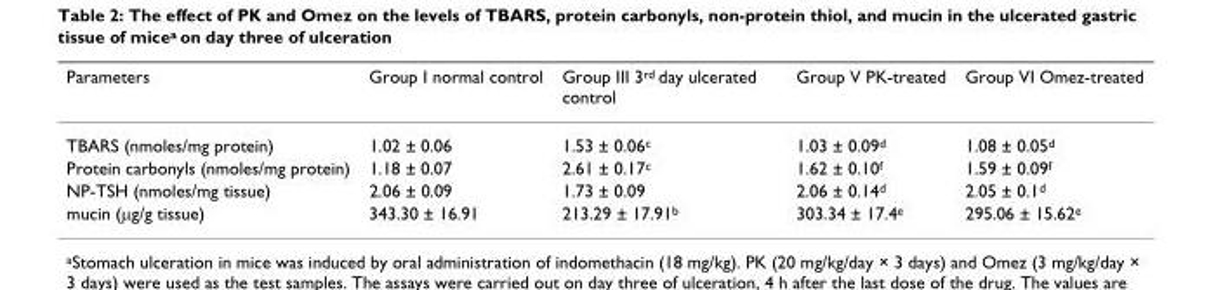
<table><thead><tr><td>Parameters</td><td>Group I normal control</td><td>Group III 3<sup>rd</sup> day ulcerated control</td><td>Group V PK-treated</td><td>Group VI Omez-treated</td></tr></thead><tbody><tr><td>TBARS (nmoles/mg protein)</td><td>1.02 ± 0.06</td><td>1.53 ± 0.06<sup>c</sup></td><td>1.03 ± 0.09<sup>d</sup></td><td>1.08 ± 0.05<sup>d</sup></td></tr><tr><td>Protein carbonyls (nmoles/mg protein)</td><td>1.18 ± 0.07</td><td>2.61 ± 0.17<sup>c</sup></td><td>1.62 ± 0.10<sup>f</sup></td><td>1.59 ± 0.09<sup>f</sup></td></tr><tr><td>NP-TSH (nmoles/mg tissue)</td><td>2.06 ± 0.09</td><td>1.73 ± 0.09</td><td>2.06 ± 0.14<sup>d</sup></td><td>2.05 ± 0.1<sup>d</sup></td></tr><tr><td>mucin (μg/g tissue)</td><td>343.30 ± 16.91</td><td>213.29 ± 17.91<sup>b</sup></td><td>303.34 ± 17.4<sup>e</sup></td><td>295.06 ± 15.62<sup>e</sup></td></tr></tbody></table>